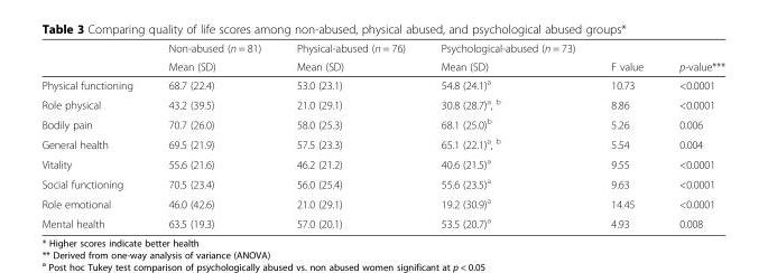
<table><thead><tr><td rowspan="2"></td><td rowspan="2">Non-abused (n = 81) Mean (SD)</td><td rowspan="2">Physical-abused (n = 76) Mean (SD)</td><td rowspan="2">Psychological-abused (n = 73) Mean (SD)</td><td rowspan="2">F value</td><td rowspan="2">p-value***</td></tr><tr></tr></thead><tbody><tr><td>Physical functioning</td><td>68.7 (22.4)</td><td>53.0 (23.1)</td><td>54.8 (24.1)<sup>a</sup></td><td>10.73</td><td>&lt;0.0001</td></tr><tr><td>Role physical</td><td>43.2 (39.5)</td><td>21.0 (29.1)</td><td>30.8 (28.7)<sup>a</sup>, <sup>b</sup></td><td>8.86</td><td>&lt;0.0001</td></tr><tr><td>Bodily pain</td><td>70.7 (26.0)</td><td>58.0 (25.3)</td><td>68.1 (25.0)<sup>b</sup></td><td>5.26</td><td>0.006</td></tr><tr><td>General health</td><td>69.5 (21.9)</td><td>57.5 (23.3)</td><td>65.1 (22.1)<sup>a</sup>, <sup>b</sup></td><td>5.54</td><td>0.004</td></tr><tr><td>Vitality</td><td>55.6 (21.6)</td><td>46.2 (21.2)</td><td>40.6 (21.5)<sup>a</sup></td><td>9.55</td><td>&lt;0.0001</td></tr><tr><td>Social functioning</td><td>70.5 (23.4)</td><td>56.0 (25.4)</td><td>55.6 (23.5)<sup>a</sup></td><td>9.63</td><td>&lt;0.0001</td></tr><tr><td>Role emotional</td><td>46.0 (42.6)</td><td>21.0 (29.1)</td><td>19.2 (30.9)<sup>a</sup></td><td>14.45</td><td>&lt;0.0001</td></tr><tr><td>Mental health</td><td>63.5 (19.3)</td><td>57.0 (20.1)</td><td>53.5 (20.7)<sup>a</sup></td><td>4.93</td><td>0.008</td></tr></tbody></table>